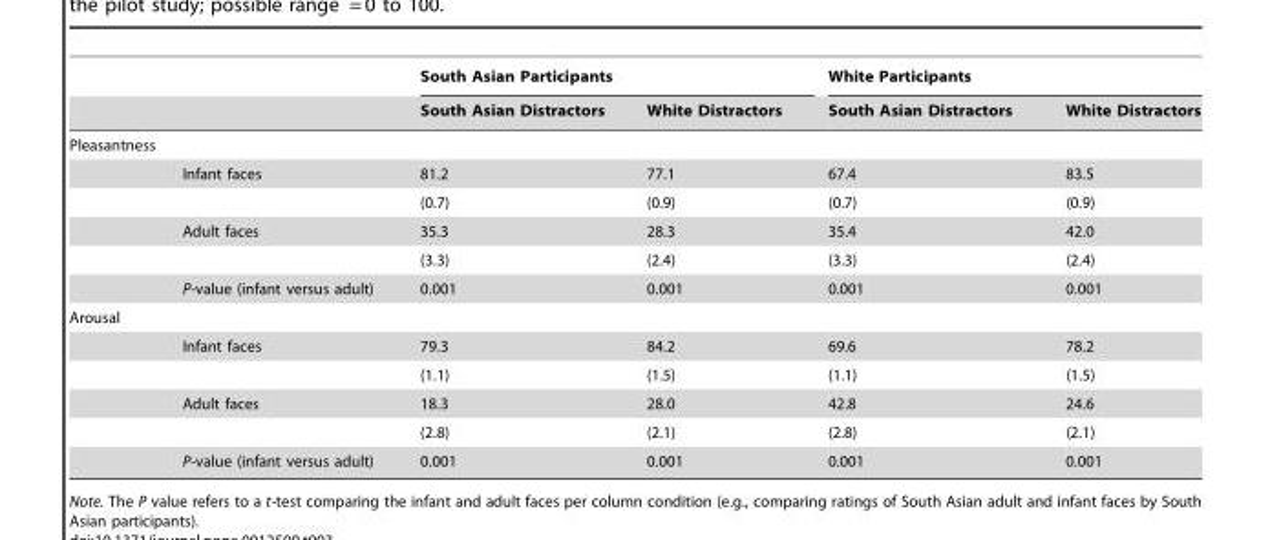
<table><thead><tr><td rowspan="2"></td><td rowspan="2"></td><td colspan="2">South Asian Participants</td><td colspan="2">White Participants</td></tr><tr><td>South Asian Distractors</td><td>White Distractors</td><td>South Asian Distractors</td><td>White Distractors</td></tr></thead><tbody><tr><td colspan="6">Pleasantness</td></tr><tr><td></td><td>Infant faces</td><td>81.2</td><td>77.1</td><td>67.4</td><td>83.5</td></tr><tr><td></td><td></td><td>(0.7)</td><td>(0.9)</td><td>(0.7)</td><td>(0.9)</td></tr><tr><td></td><td>Adult faces</td><td>35.3</td><td>28.3</td><td>35.4</td><td>42.0</td></tr><tr><td></td><td></td><td>(3.3)</td><td>(2.4)</td><td>(3.3)</td><td>(2.4)</td></tr><tr><td></td><td>P-value (infant versus adult)</td><td>0.001</td><td>0.001</td><td>0.001</td><td>0.001</td></tr><tr><td colspan="6">Arousal</td></tr><tr><td></td><td>Infant faces</td><td>79.3</td><td>84.2</td><td>69.6</td><td>78.2</td></tr><tr><td></td><td></td><td>(1.1)</td><td>(1.5)</td><td>(1.1)</td><td>(1.5)</td></tr><tr><td></td><td>Adult faces</td><td>18.3</td><td>28.0</td><td>42.8</td><td>24.6</td></tr><tr><td></td><td></td><td>(2.8)</td><td>(2.1)</td><td>(2.8)</td><td>(2.1)</td></tr><tr><td></td><td>P-value (infant versus adult)</td><td>0.001</td><td>0.001</td><td>0.001</td><td>0.001</td></tr></tbody></table>